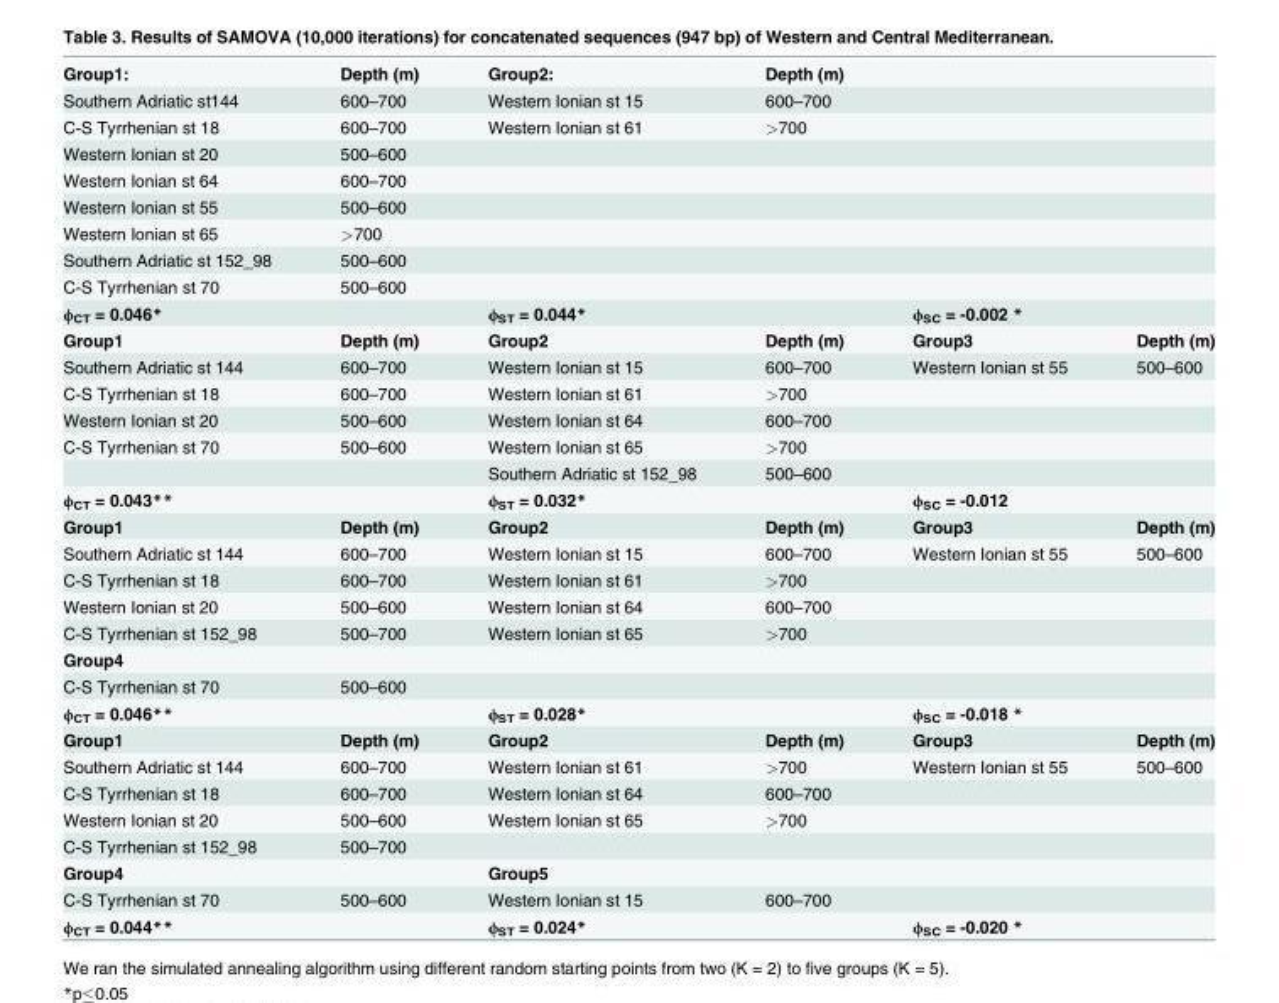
<table><tbody><tr><td>Group1:</td><td>Depth (m)</td><td>Group2:</td><td>Depth (m)</td><td></td><td></td></tr><tr><td>Southern Adriatic st144</td><td>600–700</td><td>Western Ionian st 15</td><td>600–700</td><td></td><td></td></tr><tr><td>C-S Tyrrhenian st 18</td><td>600–700</td><td>Western Ionian st 61</td><td>&gt;700</td><td></td><td></td></tr><tr><td>Western Ionian st 20</td><td>500–600</td><td></td><td></td><td></td><td></td></tr><tr><td>Western Ionian st 64</td><td>600–700</td><td></td><td></td><td></td><td></td></tr><tr><td>Western Ionian st 55</td><td>500–600</td><td></td><td></td><td></td><td></td></tr><tr><td>Western Ionian st 65</td><td>&gt;700</td><td></td><td></td><td></td><td></td></tr><tr><td>Southern Adriatic st 152_98</td><td>500–600</td><td></td><td></td><td></td><td></td></tr><tr><td>C-S Tyrrhenian st 70</td><td>500–600</td><td></td><td></td><td></td><td></td></tr><tr><td>ϕ<sub>CT</sub> = 0.046*</td><td></td><td>ϕ<sub>ST</sub> = 0.044*</td><td></td><td>ϕ<sub>SC</sub> = -0.002 *</td><td></td></tr><tr><td>Group1</td><td>Depth (m)</td><td>Group2</td><td>Depth (m)</td><td>Group3</td><td>Depth (m)</td></tr><tr><td>Southern Adriatic st 144</td><td>600–700</td><td>Western Ionian st 15</td><td>600–700</td><td>Western Ionian st 55</td><td>500–600</td></tr><tr><td>C-S Tyrrhenian st 18</td><td>600–700</td><td>Western Ionian st 61</td><td>&gt;700</td><td></td><td></td></tr><tr><td>Western Ionian st 20</td><td>500–600</td><td>Western Ionian st 64</td><td>600–700</td><td></td><td></td></tr><tr><td rowspan="2">C-S Tyrrhenian st 70</td><td>500–600</td><td>Western Ionian st 65</td><td>&gt;700</td><td></td><td></td></tr><tr><td></td><td>Southern Adriatic st 152_98</td><td>500–600</td><td></td><td></td></tr><tr><td>ϕ<sub>CT</sub> = 0.043**</td><td></td><td>ϕ<sub>ST</sub> = 0.032*</td><td></td><td>ϕ<sub>SC</sub> = -0.012</td><td></td></tr><tr><td>Group1</td><td>Depth (m)</td><td>Group2</td><td>Depth (m)</td><td>Group3</td><td>Depth (m)</td></tr><tr><td>Southern Adriatic st 144</td><td>600–700</td><td>Western Ionian st 15</td><td>600–700</td><td>Western Ionian st 55</td><td>500–600</td></tr><tr><td>C-S Tyrrhenian st 18</td><td>600–700</td><td>Western Ionian st 61</td><td>&gt;700</td><td></td><td></td></tr><tr><td>Western Ionian st 20</td><td>500–600</td><td>Western Ionian st 64</td><td>600–700</td><td></td><td></td></tr><tr><td>C-S Tyrrhenian st 152_98</td><td>500–700</td><td>Western Ionian st 65</td><td>&gt;700</td><td></td><td></td></tr><tr><td colspan="6">Group4</td></tr><tr><td>C-S Tyrrhenian st 70</td><td>500–600</td><td></td><td></td><td></td><td></td></tr><tr><td>ϕ<sub>CT</sub> = 0.046**</td><td></td><td>ϕ<sub>ST</sub> = 0.028*</td><td></td><td>ϕ<sub>SC</sub> = -0.018 *</td><td></td></tr><tr><td>Group1</td><td>Depth (m)</td><td>Group2</td><td>Depth (m)</td><td>Group3</td><td>Depth (m)</td></tr><tr><td>Southern Adriatic st 144</td><td>600–700</td><td>Western Ionian st 61</td><td>&gt;700</td><td>Western Ionian st 55</td><td>500–600</td></tr><tr><td>C-S Tyrrhenian st 18</td><td>600–700</td><td>Western Ionian st 64</td><td>600–700</td><td></td><td></td></tr><tr><td>Western Ionian st 20</td><td>500–600</td><td>Western Ionian st 65</td><td>&gt;700</td><td></td><td></td></tr><tr><td>C-S Tyrrhenian st 152_98</td><td>500–700</td><td></td><td></td><td></td><td></td></tr><tr><td>Group4</td><td></td><td>Group5</td><td></td><td></td><td></td></tr><tr><td>C-S Tyrrhenian st 70</td><td>500–600</td><td>Western Ionian st 15</td><td>600–700</td><td></td><td></td></tr><tr><td>ϕ<sub>CT</sub> = 0.044**</td><td></td><td>ϕ<sub>ST</sub> = 0.024*</td><td></td><td>ϕ<sub>SC</sub> = -0.020 *</td><td></td></tr></tbody></table>